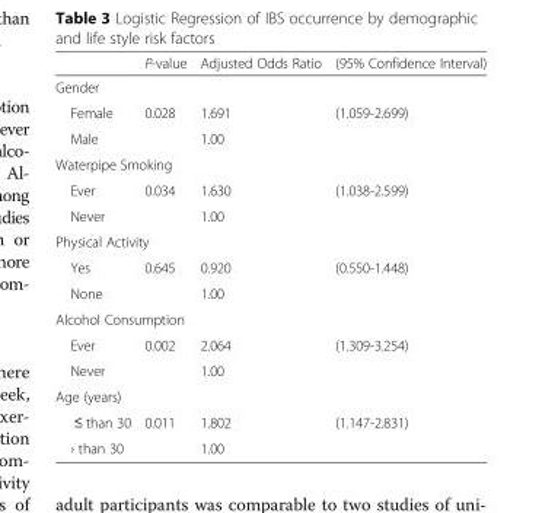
<table><thead><tr><td></td><td>P-value</td><td>Adjusted Odds Ratio</td><td>(95% Confidence Interval)</td></tr></thead><tbody><tr><td colspan="4">Gender</td></tr><tr><td>Female</td><td rowspan="2">0.028</td><td>1.691</td><td rowspan="2">(1.059-2.699)</td></tr><tr><td>Male</td><td>1.00</td></tr><tr><td colspan="4">Waterpipe Smoking</td></tr><tr><td>Ever</td><td rowspan="2">0.034</td><td>1.630</td><td rowspan="2">(1.038-2.599)</td></tr><tr><td>Never</td><td>1.00</td></tr><tr><td colspan="4">Physical Activity</td></tr><tr><td>Yes</td><td rowspan="2">0.645</td><td>0.920</td><td rowspan="2">(0.550-1.448)</td></tr><tr><td>None</td><td>1.00</td></tr><tr><td colspan="4">Alcohol Consumption</td></tr><tr><td>Ever</td><td rowspan="2">0.002</td><td>2.064</td><td rowspan="2">(1.309-3.254)</td></tr><tr><td>Never</td><td>1.00</td></tr><tr><td colspan="4">Age (years)</td></tr><tr><td>≤ than 30</td><td rowspan="2">0.011</td><td>1.802</td><td rowspan="2">(1.147-2.831)</td></tr><tr><td>› than 30</td><td>1.00</td></tr></tbody></table>